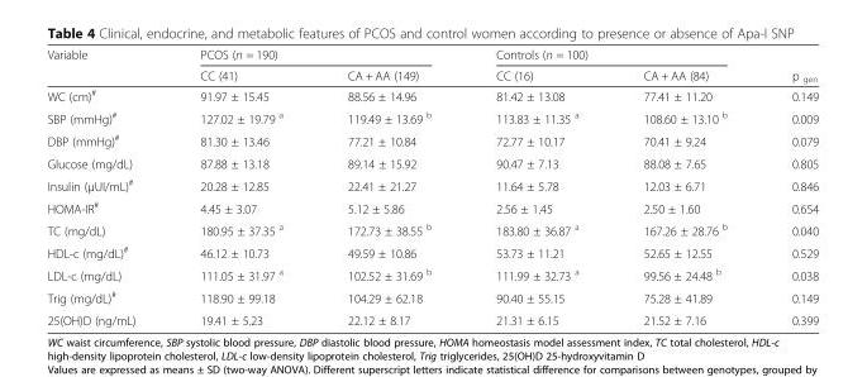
<table><thead><tr><td rowspan="2">Variable</td><td colspan="2">PCOS (n = 190)</td><td colspan="2">Controls (n = 100)</td><td rowspan="2">p <sub>gen</sub></td></tr><tr><td>CC (41)</td><td>CA + AA (149)</td><td>CC (16)</td><td>CA + AA (84)</td></tr></thead><tbody><tr><td>WC (cm)<sup>#</sup></td><td>91.97 ± 15.45</td><td>88.56 ± 14.96</td><td>81.42 ± 13.08</td><td>77.41 ± 11.20</td><td>0.149</td></tr><tr><td>SBP (mmHg)<sup>#</sup></td><td>127.02 ± 19.79 <sup>a</sup></td><td>119.49 ± 13.69 <sup>b</sup></td><td>113.83 ± 11.35 <sup>a</sup></td><td>108.60 ± 13.10 <sup>b</sup></td><td>0.009</td></tr><tr><td>DBP (mmHg)<sup>#</sup></td><td>81.30 ± 13.46</td><td>77.21 ± 10.84</td><td>72.77 ± 10.17</td><td>70.41 ± 9.24</td><td>0.079</td></tr><tr><td>Glucose (mg/dL)</td><td>87.88 ± 13.18</td><td>89.14 ± 15.92</td><td>90.47 ± 7.13</td><td>88.08 ± 7.65</td><td>0.805</td></tr><tr><td>Insulin (μUI/mL)<sup>#</sup></td><td>20.28 ± 12.85</td><td>22.41 ± 21.27</td><td>11.64 ± 5.78</td><td>12.03 ± 6.71</td><td>0.846</td></tr><tr><td>HOMA-IR<sup>#</sup></td><td>4.45 ± 3.07</td><td>5.12 ± 5.86</td><td>2.56 ± 1.45</td><td>2.50 ± 1.60</td><td>0.654</td></tr><tr><td>TC (mg/dL)</td><td>180.95 ± 37.35 <sup>a</sup></td><td>172.73 ± 38.55 <sup>b</sup></td><td>183.80 ± 36.87 <sup>a</sup></td><td>167.26 ± 28.76 <sup>b</sup></td><td>0.040</td></tr><tr><td>HDL-c (mg/dL)<sup>#</sup></td><td>46.12 ± 10.73</td><td>49.59 ± 10.86</td><td>53.73 ± 11.21</td><td>52.65 ± 12.55</td><td>0.529</td></tr><tr><td>LDL-c (mg/dL)</td><td>111.05 ± 31.97 <sup>a</sup></td><td>102.52 ± 31.69 <sup>b</sup></td><td>111.99 ± 32.73 <sup>a</sup></td><td>99.56 ± 24.48 <sup>b</sup></td><td>0.038</td></tr><tr><td>Trig (mg/dL)<sup>#</sup></td><td>118.90 ± 99.18</td><td>104.29 ± 62.18</td><td>90.40 ± 55.15</td><td>75.28 ± 41.89</td><td>0.149</td></tr><tr><td>25(OH)D (ng/mL)</td><td>19.41 ± 5.23</td><td>22.12 ± 8.17</td><td>21.31 ± 6.15</td><td>21.52 ± 7.16</td><td>0.399</td></tr></tbody></table>